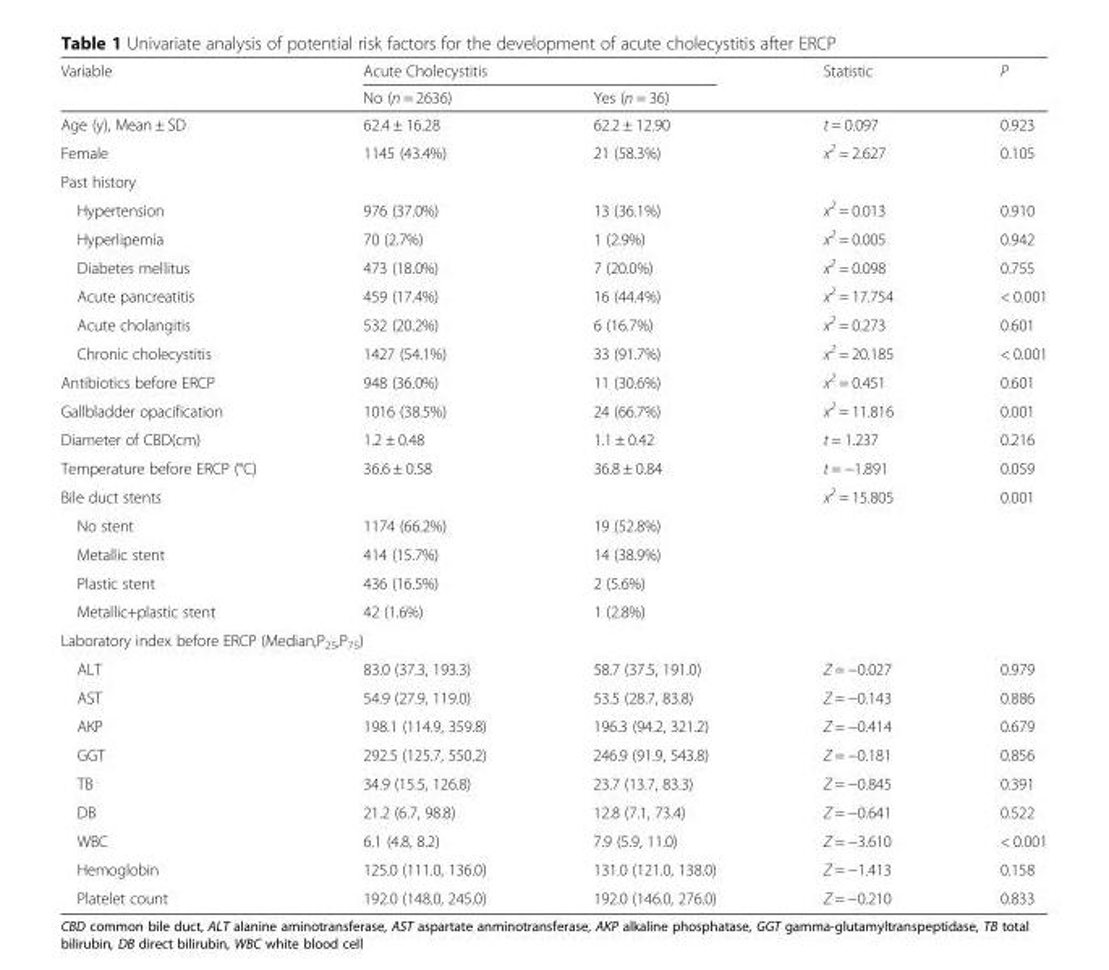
<table><thead><tr><td rowspan="2">Variable</td><td colspan="2">Acute Cholecystitis</td><td rowspan="2">Statistic</td><td rowspan="2">P</td></tr><tr><td>No (n = 2636)</td><td>Yes (n = 36)</td></tr></thead><tbody><tr><td>Age (y), Mean ± SD</td><td>62.4 ± 16.28</td><td>62.2 ± 12.90</td><td>t = 0.097</td><td>0.923</td></tr><tr><td>Female</td><td>1145 (43.4%)</td><td>21 (58.3%)</td><td>x<sup>2</sup> = 2.627</td><td>0.105</td></tr><tr><td colspan="5">Past history</td></tr><tr><td>Hypertension</td><td>976 (37.0%)</td><td>13 (36.1%)</td><td>x<sup>2</sup> = 0.013</td><td>0.910</td></tr><tr><td>Hyperlipemia</td><td>70 (2.7%)</td><td>1 (2.9%)</td><td>x<sup>2</sup> = 0.005</td><td>0.942</td></tr><tr><td>Diabetes mellitus</td><td>473 (18.0%)</td><td>7 (20.0%)</td><td>x<sup>2</sup> = 0.098</td><td>0.755</td></tr><tr><td>Acute pancreatitis</td><td>459 (17.4%)</td><td>16 (44.4%)</td><td>x<sup>2</sup> = 17.754</td><td>&lt; 0.001</td></tr><tr><td>Acute cholangitis</td><td>532 (20.2%)</td><td>6 (16.7%)</td><td>x<sup>2</sup> = 0.273</td><td>0.601</td></tr><tr><td>Chronic cholecystitis</td><td>1427 (54.1%)</td><td>33 (91.7%)</td><td>x<sup>2</sup> = 20.185</td><td>&lt; 0.001</td></tr><tr><td>Antibiotics before ERCP</td><td>948 (36.0%)</td><td>11 (30.6%)</td><td>x<sup>2</sup> = 0.451</td><td>0.601</td></tr><tr><td>Gallbladder opacification</td><td>1016 (38.5%)</td><td>24 (66.7%)</td><td>x<sup>2</sup> = 11.816</td><td>0.001</td></tr><tr><td>Diameter of CBD(cm)</td><td>1.2 ± 0.48</td><td>1.1 ± 0.42</td><td>t = 1.237</td><td>0.216</td></tr><tr><td>Temperature before ERCP (°C)</td><td>36.6 ± 0.58</td><td>36.8 ± 0.84</td><td>t = −1.891</td><td>0.059</td></tr><tr><td>Bile duct stents</td><td></td><td></td><td>x<sup>2</sup> = 15.805</td><td>0.001</td></tr><tr><td>No stent</td><td>1174 (66.2%)</td><td>19 (52.8%)</td><td></td><td></td></tr><tr><td>Metallic stent</td><td>414 (15.7%)</td><td>14 (38.9%)</td><td></td><td></td></tr><tr><td>Plastic stent</td><td>436 (16.5%)</td><td>2 (5.6%)</td><td></td><td></td></tr><tr><td>Metallic+plastic stent</td><td>42 (1.6%)</td><td>1 (2.8%)</td><td></td><td></td></tr><tr><td colspan="5">Laboratory index before ERCP (Median,P<sub>25</sub>,P<sub>75</sub>)</td></tr><tr><td>ALT</td><td>83.0 (37.3, 193.3)</td><td>58.7 (37.5, 191.0)</td><td>Z = −0.027</td><td>0.979</td></tr><tr><td>AST</td><td>54.9 (27.9, 119.0)</td><td>53.5 (28.7, 83.8)</td><td>Z = −0.143</td><td>0.886</td></tr><tr><td>AKP</td><td>198.1 (114.9, 359.8)</td><td>196.3 (94.2, 321.2)</td><td>Z = −0.414</td><td>0.679</td></tr><tr><td>GGT</td><td>292.5 (125.7, 550.2)</td><td>246.9 (91.9, 543.8)</td><td>Z = −0.181</td><td>0.856</td></tr><tr><td>TB</td><td>34.9 (15.5, 126.8)</td><td>23.7 (13.7, 83.3)</td><td>Z = −0.845</td><td>0.391</td></tr><tr><td>DB</td><td>21.2 (6.7, 98.8)</td><td>12.8 (7.1, 73.4)</td><td>Z = −0.641</td><td>0.522</td></tr><tr><td>WBC</td><td>6.1 (4.8, 8.2)</td><td>7.9 (5.9, 11.0)</td><td>Z = −3.610</td><td>&lt; 0.001</td></tr><tr><td>Hemoglobin</td><td>125.0 (111.0, 136.0)</td><td>131.0 (121.0, 138.0)</td><td>Z = −1.413</td><td>0.158</td></tr><tr><td>Platelet count</td><td>192.0 (148.0, 245.0)</td><td>192.0 (146.0, 276.0)</td><td>Z = −0.210</td><td>0.833</td></tr></tbody></table>